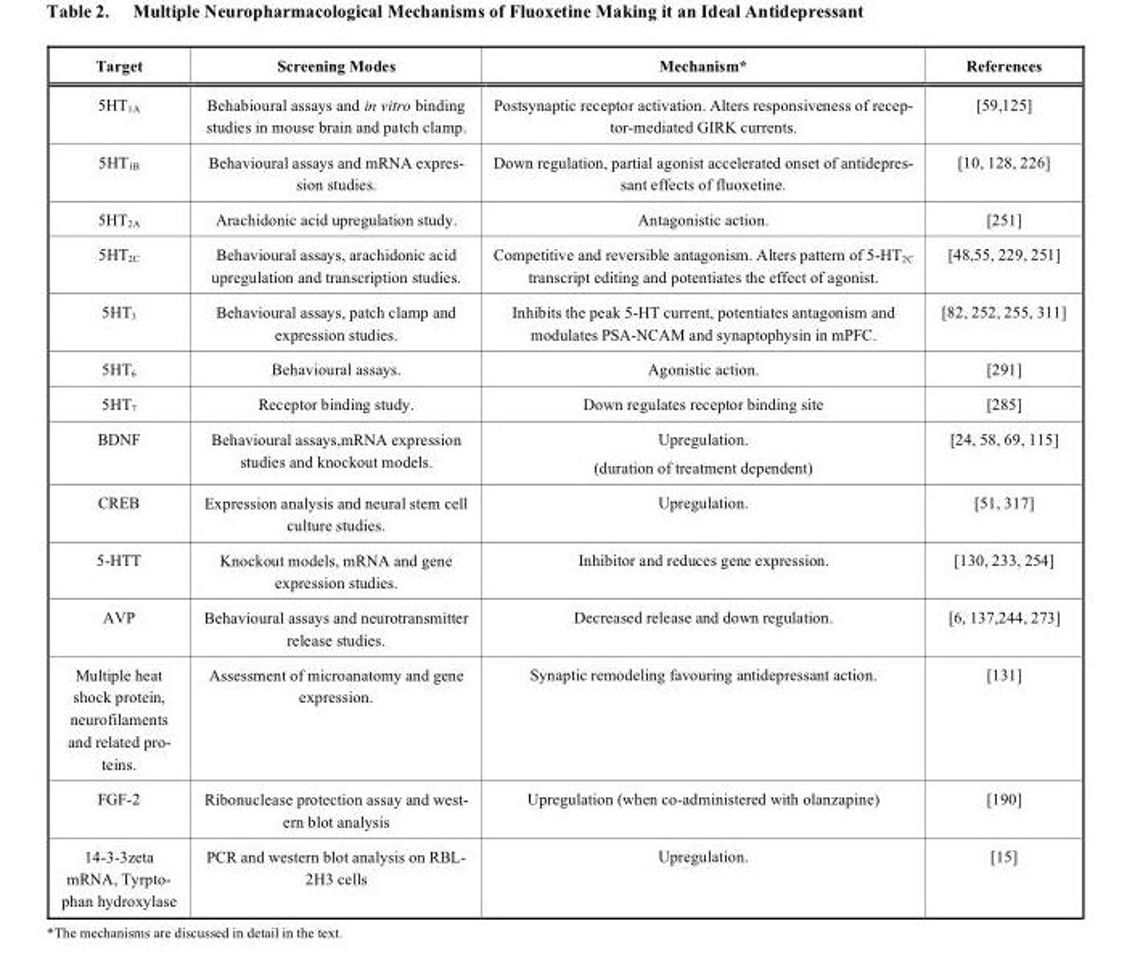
<table><thead><tr><td>Target</td><td>Screening Modes</td><td>Mechanism*</td><td>References</td></tr></thead><tbody><tr><td>5HT<sub>1A</sub></td><td>Behabioural assays and in vitro binding studies in mouse brain and patch clamp.</td><td>Postsynaptic receptor activation. Alters responsiveness of recep- tor-mediated GIRK currents.</td><td>[59,125]</td></tr><tr><td>5HT<sub>1B</sub></td><td>Behavioural assays and mRNA expres- sion studies.</td><td>Down regulation, partial agonist accelerated onset of antidepres- sant effects of fluoxetine.</td><td>[10, 128, 226]</td></tr><tr><td>5HT<sub>2A</sub></td><td>Arachidonic acid upregulation study.</td><td>Antagonistic action.</td><td>[251]</td></tr><tr><td>5HT<sub>2C</sub></td><td>Behavioural assays, arachidonic acid upregulation and transcription studies.</td><td>Competitive and reversible antagonism. Alters pattern of 5-HT<sub>2C</sub> transcript editing and potentiates the effect of agonist.</td><td>[48,55, 229, 251]</td></tr><tr><td>5HT<sub>3</sub></td><td>Behavioural assays, patch clamp and expression studies.</td><td>Inhibits the peak 5-HT current, potentiates antagonism and modulates PSA-NCAM and synaptophysin in mPFC.</td><td>[82, 252, 255, 311]</td></tr><tr><td>5HT<sub>6</sub></td><td>Behavioural assays.</td><td>Agonistic action.</td><td>[291]</td></tr><tr><td>5HT<sub>7</sub></td><td>Receptor binding study.</td><td>Down regulates receptor binding site</td><td>[285]</td></tr><tr><td>BDNF</td><td>Behavioural assays,mRNA expression studies and knockout models.</td><td>Upregulation. (duration of treatment dependent)</td><td>[24, 58, 69, 115]</td></tr><tr><td>CREB</td><td>Expression analysis and neural stem cell culture studies.</td><td>Upregulation.</td><td>[51, 317]</td></tr><tr><td>5-HTT</td><td>Knockout models, mRNA and gene expression studies.</td><td>Inhibitor and reduces gene expression.</td><td>[130, 233, 254]</td></tr><tr><td>AVP</td><td>Behavioural assays and neurotransmitter release studies.</td><td>Decreased release and down regulation.</td><td>[6, 137,244, 273]</td></tr><tr><td>Multiple heat shock protein, neurofilaments and related pro- teins.</td><td>Assessment of microanatomy and gene expression.</td><td>Synaptic remodeling favouring antidepressant action.</td><td>[131]</td></tr><tr><td>FGF-2</td><td>Ribonuclease protection assay and west- ern blot analysis</td><td>Upregulation (when co-administered with olanzapine)</td><td>[190]</td></tr><tr><td>14-3-3zeta mRNA, Tyrpto- phan hydroxylase</td><td>PCR and western blot analysis on RBL- 2H3 cells</td><td>Upregulation.</td><td>[15]</td></tr></tbody></table>